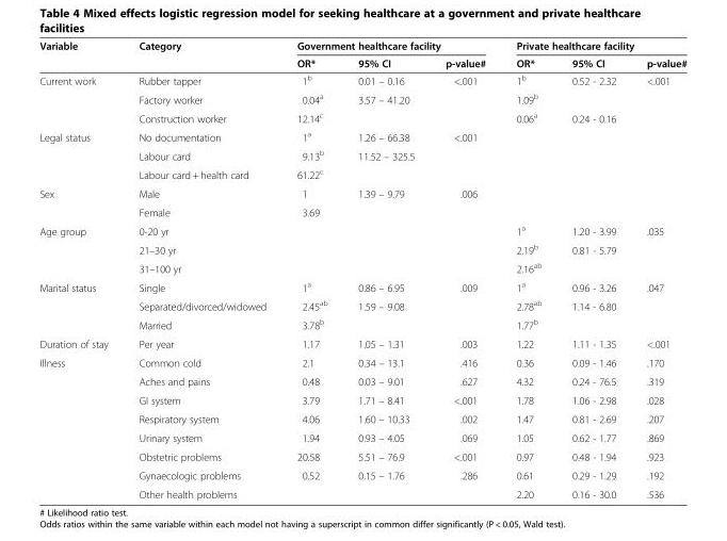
<table><thead><tr><td rowspan="2">Variable</td><td rowspan="2">Category</td><td colspan="3">Government healthcare facility</td><td colspan="3">Private healthcare facility</td></tr><tr><td>OR*</td><td>95% CI</td><td>p-value#</td><td>OR*</td><td>95% CI</td><td>p-value#</td></tr></thead><tbody><tr><td rowspan="3">Current work</td><td>Rubber tapper</td><td>1.b</td><td>0.01 – 0.16</td><td>&lt;.001</td><td>1<sup>b</sup></td><td>0.52 - 2.32</td><td rowspan="3">&lt;.001</td></tr><tr><td>Factory worker</td><td>0.04<sup>a</sup></td><td>3.57 – 41.20</td><td></td><td>1.09<sup>b</sup></td><td></td></tr><tr><td>Construction worker</td><td>12.14<sup>c</sup></td><td></td><td></td><td>0.06<sup>a</sup></td><td>0.24 - 0.16</td></tr><tr><td rowspan="3">Legal status</td><td>No documentation</td><td>1.a</td><td>1.26 – 66.38</td><td>&lt;.001</td><td></td><td></td><td></td></tr><tr><td>Labour card</td><td>9.13<sup>b</sup></td><td>11.52 – 325.5</td><td></td><td></td><td></td><td></td></tr><tr><td>Labour card + health card</td><td>61.22<sup>c</sup></td><td></td><td></td><td></td><td></td><td></td></tr><tr><td rowspan="2">Sex</td><td>Male</td><td>1</td><td>1.39 – 9.79</td><td>.006</td><td></td><td></td><td></td></tr><tr><td>Female</td><td>3.69</td><td></td><td></td><td></td><td></td><td></td></tr><tr><td rowspan="3">Age group</td><td>0-20 yr</td><td></td><td></td><td></td><td>1<sup>a</sup></td><td>1.20 - 3.99</td><td>.035</td></tr><tr><td>21–30 yr</td><td></td><td></td><td></td><td>2.19<sup>b</sup></td><td>0.81 - 5.79</td><td></td></tr><tr><td>31–100 yr</td><td></td><td></td><td></td><td>2.16<sup>ab</sup></td><td></td><td></td></tr><tr><td rowspan="3">Marital status</td><td>Single</td><td>1.a</td><td>0.86 – 6.95</td><td>.009</td><td>1<sup>a</sup></td><td>0.96 - 3.26</td><td>.047</td></tr><tr><td>Separated/divorced/widowed</td><td>2.45<sup>ab</sup></td><td>1.59 – 9.08</td><td></td><td>2.78<sup>ab</sup></td><td>1.14 - 6.80</td><td></td></tr><tr><td>Married</td><td>3.78<sup>b</sup></td><td></td><td></td><td>1.77<sup>b</sup></td><td></td><td></td></tr><tr><td>Duration of stay</td><td>Per year</td><td>1.17</td><td>1.05 – 1.31</td><td>.003</td><td>1.22</td><td>1.11 - 1.35</td><td>&lt;.001</td></tr><tr><td rowspan="8">Illness</td><td>Common cold</td><td>2.1</td><td>0.34 – 13.1</td><td>.416</td><td>0.36</td><td>0.09 - 1.46</td><td>.170</td></tr><tr><td>Aches and pains</td><td>0.48</td><td>0.03 – 9.01</td><td>.627</td><td>4.32</td><td>0.24 - 76.5</td><td>.319</td></tr><tr><td>GI system</td><td>3.79</td><td>1.71 – 8.41</td><td>&lt;.001</td><td>1.78</td><td>1.06 - 2.98</td><td>.028</td></tr><tr><td>Respiratory system</td><td>4.06</td><td>1.60 – 10.33</td><td>.002</td><td>1.47</td><td>0.81 - 2.69</td><td>.207</td></tr><tr><td>Urinary system</td><td>1.94</td><td>0.93 – 4.05</td><td>.069</td><td>1.05</td><td>0.62 - 1.77</td><td>.869</td></tr><tr><td>Obstetric problems</td><td>20.58</td><td>5.51 – 76.9</td><td>&lt;.001</td><td>0.97</td><td>0.48 - 1.94</td><td>.923</td></tr><tr><td>Gynaecologic problems</td><td>0.52</td><td>0.15 – 1.76</td><td>.286</td><td>0.61</td><td>0.29 - 1.29</td><td>.192</td></tr><tr><td>Other health problems</td><td></td><td></td><td></td><td>2.20</td><td>0.16 - 30.0</td><td>.536</td></tr></tbody></table>